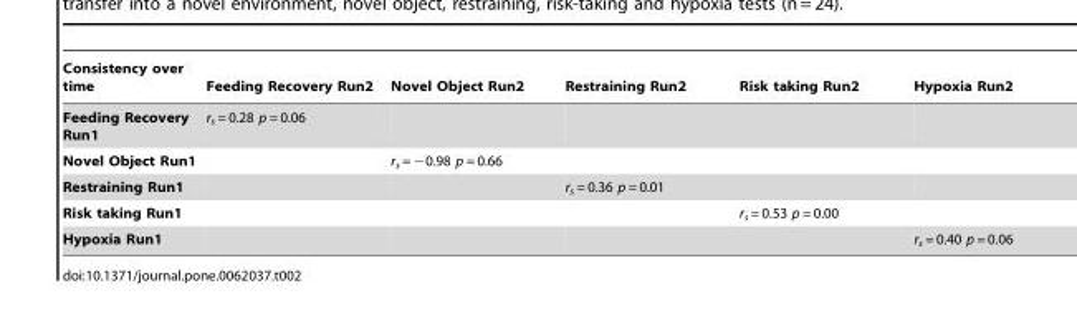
<table><thead><tr><td>Consistency over time</td><td>Feeding Recovery Run2</td><td>Novel Object Run2</td><td>Restraining Run2</td><td>Risk taking Run2</td><td>Hypoxia Run2</td></tr></thead><tbody><tr><td>Feeding Recovery Run1</td><td>r<sub>s</sub> = 0.28 p = 0.06</td><td></td><td></td><td></td><td></td></tr><tr><td>Novel Object Run1</td><td></td><td>r<sub>s</sub> = −0.98 p = 0.66</td><td></td><td></td><td></td></tr><tr><td>Restraining Run1</td><td></td><td></td><td>r<sub>s</sub> = 0.36 p = 0.01</td><td></td><td></td></tr><tr><td>Risk taking Run1</td><td></td><td></td><td></td><td>r<sub>s</sub> = 0.53 p = 0.00</td><td></td></tr><tr><td>Hypoxia Run1</td><td></td><td></td><td></td><td></td><td>r<sub>s</sub> = 0.40 p = 0.06</td></tr></tbody></table>